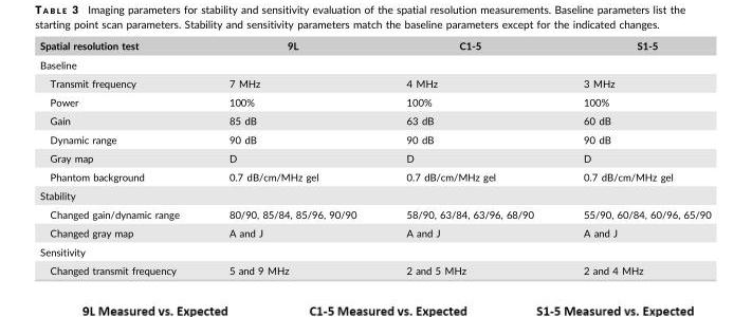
<table><thead><tr><td>Spatial resolution test</td><td>9L</td><td>C1-5</td><td>S1-5</td></tr></thead><tbody><tr><td colspan="4">Baseline</td></tr><tr><td>Transmit frequency</td><td>7 MHz</td><td>4 MHz</td><td>3 MHz</td></tr><tr><td>Power</td><td>100%</td><td>100%</td><td>100%</td></tr><tr><td>Gain</td><td>85 dB</td><td>63 dB</td><td>60 dB</td></tr><tr><td>Dynamic range</td><td>90 dB</td><td>90 dB</td><td>90 dB</td></tr><tr><td>Gray map</td><td>D</td><td>D</td><td>D</td></tr><tr><td>Phantom background</td><td>0.7 dB/cm/MHz gel</td><td>0.7 dB/cm/MHz gel</td><td>0.7 dB/cm/MHz gel</td></tr><tr><td colspan="4">Stability</td></tr><tr><td>Changed gain/dynamic range</td><td>80/90, 85/84, 85/96, 90/90</td><td>58/90, 63/84, 63/96, 68/90</td><td>55/90, 60/84, 60/96, 65/90</td></tr><tr><td>Changed gray map</td><td>A and J</td><td>A and J</td><td>A and J</td></tr><tr><td colspan="4">Sensitivity</td></tr><tr><td>Changed transmit frequency</td><td>5 and 9 MHz</td><td>2 and 5 MHz</td><td>2 and 4 MHz</td></tr></tbody></table>